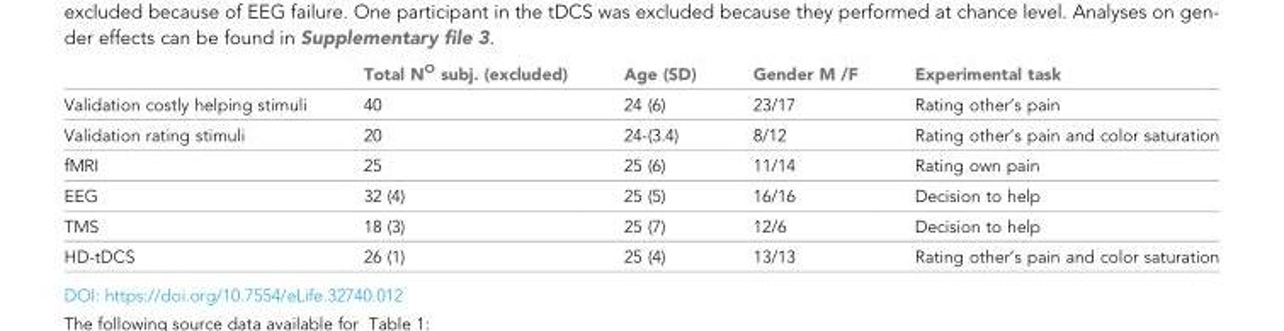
<table><thead><tr><td></td><td>Total N<sup>O</sup> subj. (excluded)</td><td>Age (SD)</td><td>Gender M /F</td><td>Experimental task</td></tr></thead><tbody><tr><td>Validation costly helping stimuli</td><td>40</td><td>24 (6)</td><td>23/17</td><td>Rating other’s pain</td></tr><tr><td>Validation rating stimuli</td><td>20</td><td>24-(3.4)</td><td>8/12</td><td>Rating other’s pain and color saturation</td></tr><tr><td>fMRI</td><td>25</td><td>25 (6)</td><td>11/14</td><td>Rating own pain</td></tr><tr><td>EEG</td><td>32 (4)</td><td>25 (5)</td><td>16/16</td><td>Decision to help</td></tr><tr><td>TMS</td><td>18 (3)</td><td>25 (7)</td><td>12/6</td><td>Decision to help</td></tr><tr><td>HD-tDCS</td><td>26 (1)</td><td>25 (4)</td><td>13/13</td><td>Rating other’s pain and color saturation</td></tr></tbody></table>